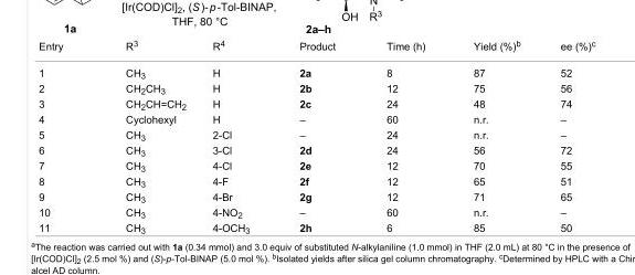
<table><tbody><tr><td>Entry</td><td>R<sup>3</sup></td><td>R<sup>4</sup></td><td>Product</td><td>Time (h)</td><td>Yield (%)<sup>b</sup></td><td>ee (%)<sup>c</sup></td></tr><tr><td>1</td><td>CH<sub>3</sub></td><td>H</td><td>2a</td><td>8</td><td>87</td><td>52</td></tr><tr><td>2</td><td>CH<sub>2</sub>CH<sub>3</sub></td><td>H</td><td>2b</td><td>12</td><td>75</td><td>56</td></tr><tr><td>3</td><td>CH<sub>2</sub>CH=CH<sub>2</sub></td><td>H</td><td>2c</td><td>24</td><td>48</td><td>74</td></tr><tr><td>4</td><td>Cyclohexyl</td><td>H</td><td>–</td><td>60</td><td>n.r.</td><td>–</td></tr><tr><td>5</td><td>CH<sub>3</sub></td><td>2-Cl</td><td>–</td><td>24</td><td>n.r.</td><td>–</td></tr><tr><td>6</td><td>CH<sub>3</sub></td><td>3-Cl</td><td>2d</td><td>24</td><td>56</td><td>72</td></tr><tr><td>7</td><td>CH<sub>3</sub></td><td>4-Cl</td><td>2e</td><td>12</td><td>70</td><td>55</td></tr><tr><td>8</td><td>CH<sub>3</sub></td><td>4-F</td><td>2f</td><td>12</td><td>65</td><td>51</td></tr><tr><td>9</td><td>CH<sub>3</sub></td><td>4-Br</td><td>2g</td><td>12</td><td>71</td><td>65</td></tr><tr><td>10</td><td>CH<sub>3</sub></td><td>4-NO<sub>2</sub></td><td>–</td><td>60</td><td>n.r.</td><td>–</td></tr><tr><td>11</td><td>CH<sub>3</sub></td><td>4-OCH<sub>3</sub></td><td>2h</td><td>6</td><td>85</td><td>50</td></tr></tbody></table>